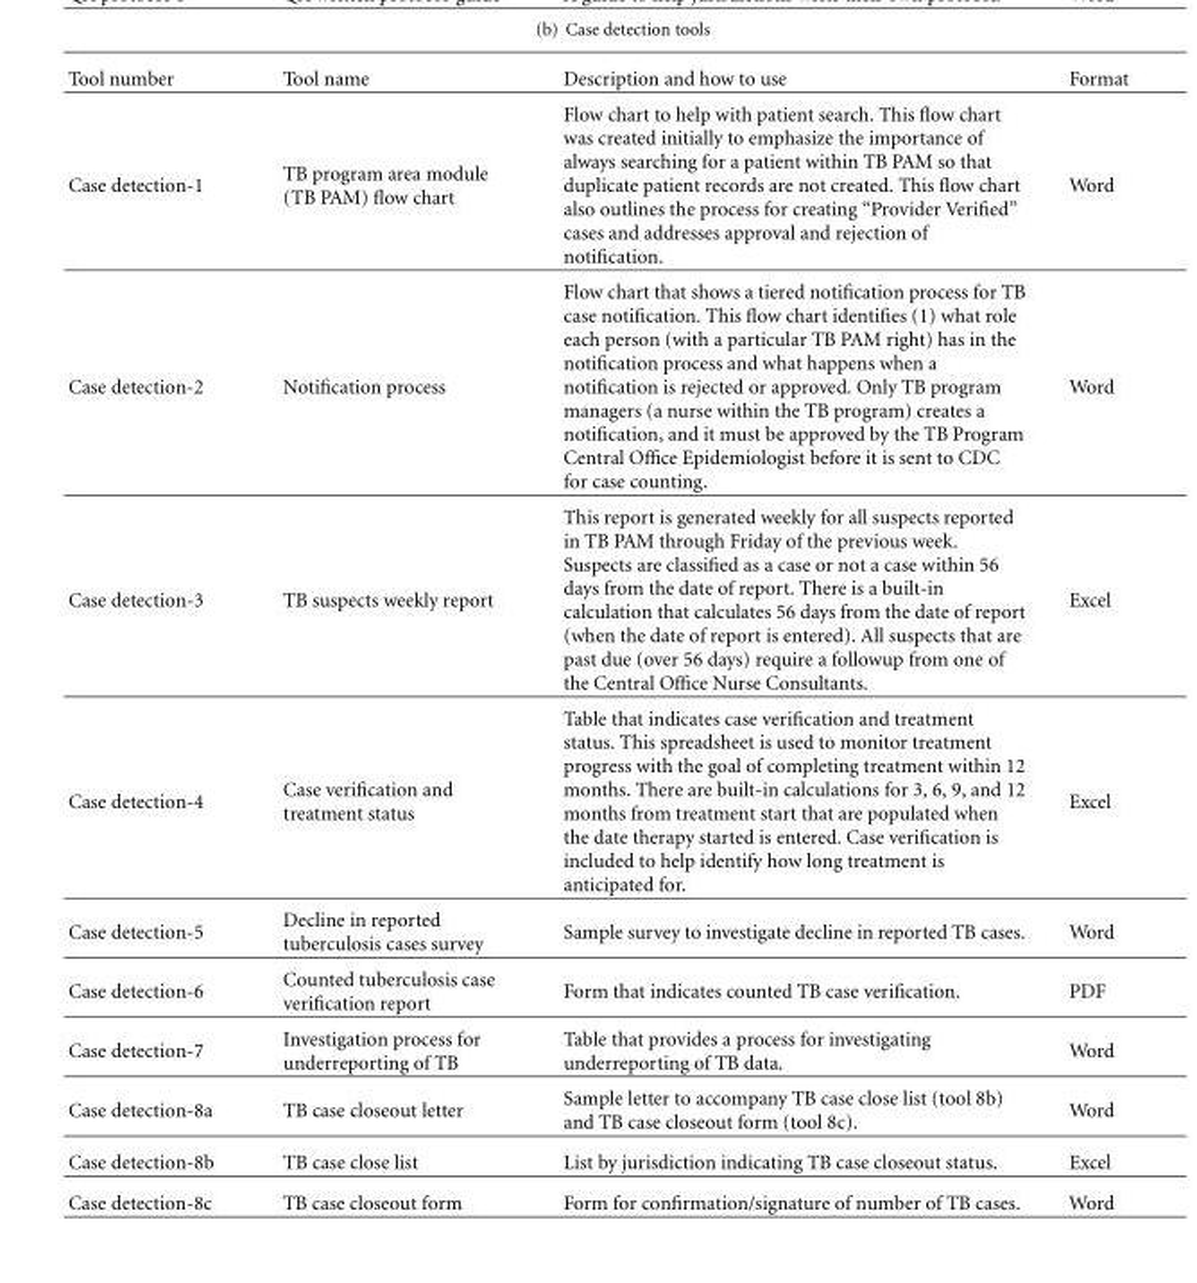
<table><thead><tr><td>Tool number</td><td>Tool name</td><td>Description and how to use</td><td>Format</td></tr></thead><tbody><tr><td>Case detection-1</td><td>TB program area module (TB PAM) flow chart</td><td>Flow chart to help with patient search. This flow chart was created initially to emphasize the importance of always searching for a patient within TB PAM so that duplicate patient records are not created. This flow chart also outlines the process for creating “Provider Verified” cases and addresses approval and rejection of notification.</td><td>Word</td></tr><tr><td>Case detection-2</td><td>Notification process</td><td>Flow chart that shows a tiered notification process for TB case notification. This flow chart identifies (1) what role each person (with a particular TB PAM right) has in the notification process and what happens when a notification is rejected or approved. Only TB program managers (a nurse within the TB program) creates a notification, and it must be approved by the TB Program Central Office Epidemiologist before it is sent to CDC for case counting.</td><td>Word</td></tr><tr><td>Case detection-3</td><td>TB suspects weekly report</td><td>This report is generated weekly for all suspects reported in TB PAM through Friday of the previous week. Suspects are classified as a case or not a case within 56 days from the date of report. There is a built-in calculation that calculates 56 days from the date of report (when the date of report is entered). All suspects that are past due (over 56 days) require a followup from one of the Central Office Nurse Consultants.</td><td>Excel</td></tr><tr><td>Case detection-4</td><td>Case verification and treatment status</td><td>Table that indicates case verification and treatment status. This spreadsheet is used to monitor treatment progress with the goal of completing treatment within 12 months. There are built-in calculations for 3, 6, 9, and 12 months from treatment start that are populated when the date therapy started is entered. Case verification is included to help identify how long treatment is anticipated for.</td><td>Excel</td></tr><tr><td>Case detection-5</td><td>Decline in reported tuberculosis cases survey</td><td>Sample survey to investigate decline in reported TB cases.</td><td>Word</td></tr><tr><td>Case detection-6</td><td>Counted tuberculosis case verification report</td><td>Form that indicates counted TB case verification.</td><td>PDF</td></tr><tr><td>Case detection-7</td><td>Investigation process for underreporting of TB</td><td>Table that provides a process for investigating underreporting of TB data.</td><td>Word</td></tr><tr><td>Case detection-8a</td><td>TB case closeout letter</td><td>Sample letter to accompany TB case close list (tool 8b) and TB case closeout form (tool 8c).</td><td>Word</td></tr><tr><td>Case detection-8b</td><td>TB case close list</td><td>List by jurisdiction indicating TB case closeout status.</td><td>Excel</td></tr><tr><td>Case detection-8c</td><td>TB case closeout form</td><td>Form for confirmation/signature of number of TB cases.</td><td>Word</td></tr></tbody></table>